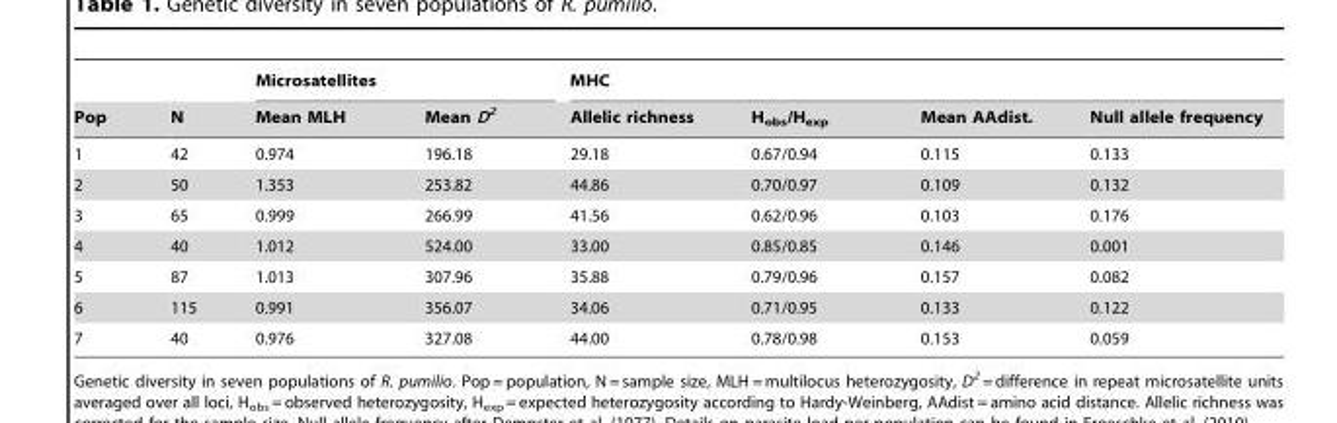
<table><thead><tr><td rowspan="2">Pop</td><td rowspan="2">N</td><td colspan="2">Microsatellites</td><td colspan="4">MHC</td></tr><tr><td>Mean MLH</td><td>Mean D<sup>2</sup></td><td>Allelic richness</td><td>H<sub>obs</sub>/H<sub>exp</sub></td><td>Mean AAdist.</td><td>Null allele frequency</td></tr></thead><tbody><tr><td>1</td><td>42</td><td>0.974</td><td>196.18</td><td>29.18</td><td>0.67/0.94</td><td>0.115</td><td>0.133</td></tr><tr><td>2</td><td>50</td><td>1.353</td><td>253.82</td><td>44.86</td><td>0.70/0.97</td><td>0.109</td><td>0.132</td></tr><tr><td>3</td><td>65</td><td>0.999</td><td>266.99</td><td>41.56</td><td>0.62/0.96</td><td>0.103</td><td>0.176</td></tr><tr><td>4</td><td>40</td><td>1.012</td><td>524.00</td><td>33.00</td><td>0.85/0.85</td><td>0.146</td><td>0.001</td></tr><tr><td>5</td><td>87</td><td>1.013</td><td>307.96</td><td>35.88</td><td>0.79/0.96</td><td>0.157</td><td>0.082</td></tr><tr><td>6</td><td>115</td><td>0.991</td><td>356.07</td><td>34.06</td><td>0.71/0.95</td><td>0.133</td><td>0.122</td></tr><tr><td>7</td><td>40</td><td>0.976</td><td>327.08</td><td>44.00</td><td>0.78/0.98</td><td>0.153</td><td>0.059</td></tr></tbody></table>